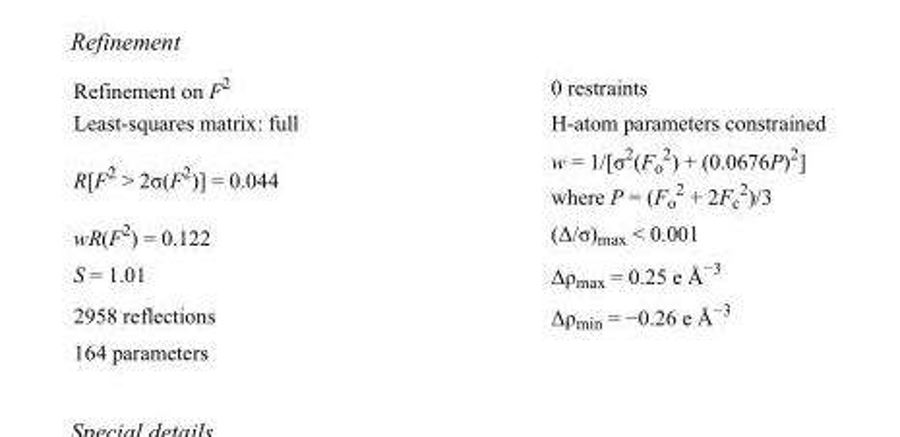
<table><tbody><tr><td>Refinement on F<sup>2</sup></td><td>0 restraints</td></tr><tr><td>Least-squares matrix: full</td><td>H-atom parameters constrained</td></tr><tr><td>R[F<sup>2</sup> &gt; 2σ(F<sup>2</sup>)] = 0.044</td><td>w = 1/[σ<sup>2</sup>(F<sub>o</sub> <sup>2</sup>) + (0.0676P)<sup>2</sup>] where P = (F<sub>o</sub> <sup>2</sup> + 2F<sub>c</sub> <sup>2</sup>)/3</td></tr><tr><td>wR(F<sup>2</sup>) = 0.122</td><td>(Δ/σ)<sub>max</sub> &lt; 0.001</td></tr><tr><td>S = 1.01</td><td>Δρ<sub>max</sub> = 0.25 e Å<sup>−3</sup></td></tr><tr><td>2958 reflections</td><td>Δρ<sub>min</sub> = −0.26 e Å<sup>−3</sup></td></tr><tr><td>164 parameters</td><td></td></tr></tbody></table>